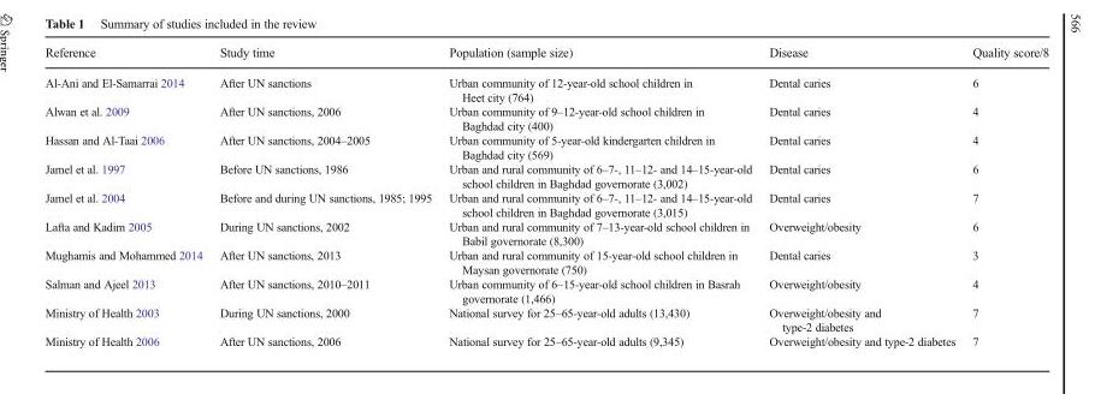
<table><thead><tr><td>Reference</td><td>Study time</td><td>Population (sample size)</td><td>Disease</td><td>Quality score/8</td></tr></thead><tbody><tr><td>Al-Ani and El-Samarrai 2014</td><td>After UN sanctions</td><td>Urban community of 12-year-old school children in Heet city (764)</td><td>Dental caries</td><td>6</td></tr><tr><td>Alwan et al. 2009</td><td>After UN sanctions, 2006</td><td>Urban community of 9–12-year-old school children in Baghdad city (400)</td><td>Dental caries</td><td>4</td></tr><tr><td>Hassan and Al-Taai 2006</td><td>After UN sanctions, 2004–2005</td><td>Urban community of 5-year-old kindergarten children in Baghdad city (569)</td><td>Dental caries</td><td>4</td></tr><tr><td>Jamel et al. 1997</td><td>Before UN sanctions, 1986</td><td>Urban and rural community of 6–7-, 11–12- and 14–15-year-old school children in Baghdad governorate (3,002)</td><td>Dental caries</td><td>6</td></tr><tr><td>Jamel et al. 2004</td><td>Before and during UN sanctions, 1985; 1995</td><td>Urban and rural community of 6–7-, 11–12- and 14–15-year-old school children in Baghdad governorate (3,015)</td><td>Dental caries</td><td>7</td></tr><tr><td>Lafta and Kadim 2005</td><td>During UN sanctions, 2002</td><td>Urban and rural community of 7–13-year-old school children in Babil governorate (8,300)</td><td>Overweight/obesity</td><td>6</td></tr><tr><td>Mughamis and Mohammed 2014</td><td>After UN sanctions, 2013</td><td>Urban and rural community of 15-year-old school children in Maysan governorate (750)</td><td>Dental caries</td><td>3</td></tr><tr><td>Salman and Ajeel 2013</td><td>After UN sanctions, 2010–2011</td><td>Urban community of 6–15-year-old school children in Basrah governorate (1,466)</td><td>Overweight/obesity</td><td>4</td></tr><tr><td>Ministry of Health 2003</td><td>During UN sanctions, 2000</td><td>National survey for 25–65-year-old adults (13,430)</td><td>Overweight/obesity and type-2 diabetes</td><td>7</td></tr><tr><td>Ministry of Health 2006</td><td>After UN sanctions, 2006</td><td>National survey for 25–65-year-old adults (9,345)</td><td>Overweight/obesity and type-2 diabetes</td><td>7</td></tr></tbody></table>